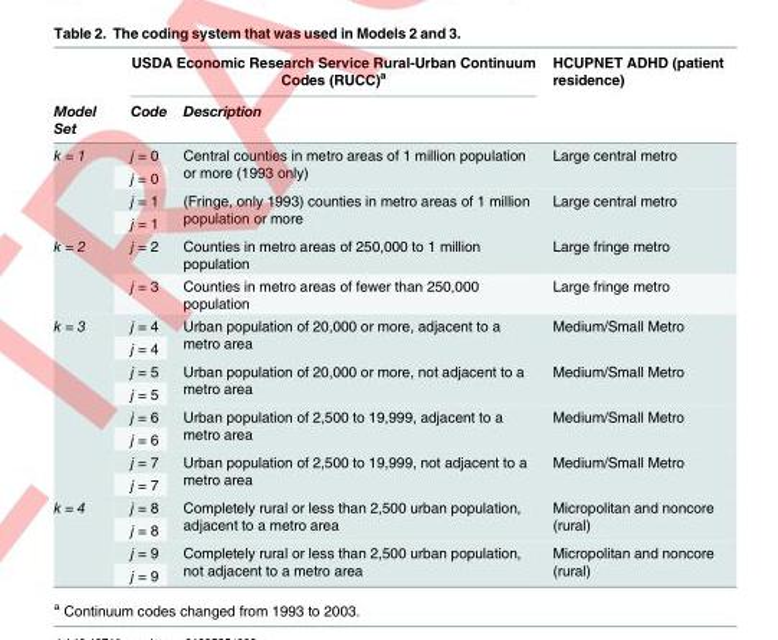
<table><thead><tr><td rowspan="2">Model Set</td><td colspan="2">USDA Economic Research Service Rural-Urban Continuum Codes (RUCC)a</td><td rowspan="2">HCUPNET ADHD (patient residence)</td></tr><tr><td>Code</td><td>Description</td></tr></thead><tbody><tr><td rowspan="4">k = 1</td><td>j = 0</td><td rowspan="2">Central counties in metro areas of 1 million population or more (1993 only)</td><td rowspan="2">Large central metro</td></tr><tr><td>j = 0</td></tr><tr><td>j = 1</td><td rowspan="2">(Fringe, only 1993) counties in metro areas of 1 million population or more</td><td rowspan="2">Large central metro</td></tr><tr><td>j = 1</td></tr><tr><td rowspan="2">k = 2</td><td>j = 2</td><td>Counties in metro areas of 250,000 to 1 million population</td><td>Large fringe metro</td></tr><tr><td>j = 3</td><td>Counties in metro areas of fewer than 250,000 population</td><td>Large fringe metro</td></tr><tr><td rowspan="8">k = 3</td><td>j = 4</td><td rowspan="2">Urban population of 20,000 or more, adjacent to a metro area</td><td rowspan="2">Medium/Small Metro</td></tr><tr><td>j = 4</td></tr><tr><td>j = 5</td><td rowspan="2">Urban population of 20,000 or more, not adjacent to a metro area</td><td rowspan="2">Medium/Small Metro</td></tr><tr><td>j = 5</td></tr><tr><td>j = 6</td><td rowspan="2">Urban population of 2,500 to 19,999, adjacent to a metro area</td><td rowspan="2">Medium/Small Metro</td></tr><tr><td>j = 6</td></tr><tr><td>j = 7</td><td rowspan="2">Urban population of 2,500 to 19,999, not adjacent to a metro area</td><td rowspan="2">Medium/Small Metro</td></tr><tr><td>j = 7</td></tr><tr><td rowspan="4">k = 4</td><td>j = 8</td><td rowspan="2">Completely rural or less than 2,500 urban population, adjacent to a metro area</td><td rowspan="2">Micropolitan and noncore (rural)</td></tr><tr><td>j = 8</td></tr><tr><td>j = 9</td><td rowspan="2">Completely rural or less than 2,500 urban population, not adjacent to a metro area</td><td rowspan="2">Micropolitan and noncore (rural)</td></tr><tr><td>j = 9</td></tr></tbody></table>